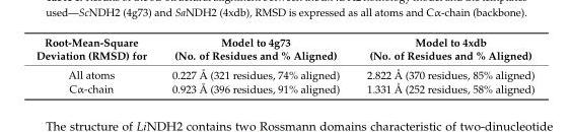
<table><thead><tr><td>Root-Mean-Square Deviation (RMSD) for</td><td>Model to 4g73 (No. of Residues and % Aligned)</td><td>Model to 4xdb (No. of Residues and % Aligned)</td></tr></thead><tbody><tr><td>All atoms</td><td>0.227 Å (321 residues, 74% aligned)</td><td>2.822 Å (370 residues, 85% aligned)</td></tr><tr><td>Cα-chain</td><td>0.923 Å (396 residues, 91% aligned)</td><td>1.331 Å (252 residues, 58% aligned)</td></tr></tbody></table>